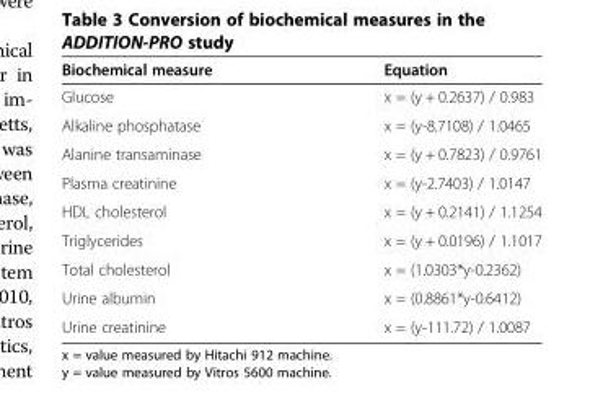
<table><thead><tr><td>Biochemical measure</td><td>Equation</td></tr></thead><tbody><tr><td>Glucose</td><td>x = (y + 0.2637) / 0.983</td></tr><tr><td>Alkaline phosphatase</td><td>x = (y-8.7108) / 1.0465</td></tr><tr><td>Alanine transaminase</td><td>x = (y + 0.7823) / 0.9761</td></tr><tr><td>Plasma creatinine</td><td>x = (y-2.7403) / 1.0147</td></tr><tr><td>HDL cholesterol</td><td>x = (y + 0.2141) / 1.1254</td></tr><tr><td>Triglycerides</td><td>x = (y + 0.0196) / 1.1017</td></tr><tr><td>Total cholesterol</td><td>x = (1.0303*y-0.2362)</td></tr><tr><td>Urine albumin</td><td>x = (0.8861*y-0.6412)</td></tr><tr><td>Urine creatinine</td><td>x = (y-111.72) / 1.0087</td></tr></tbody></table>